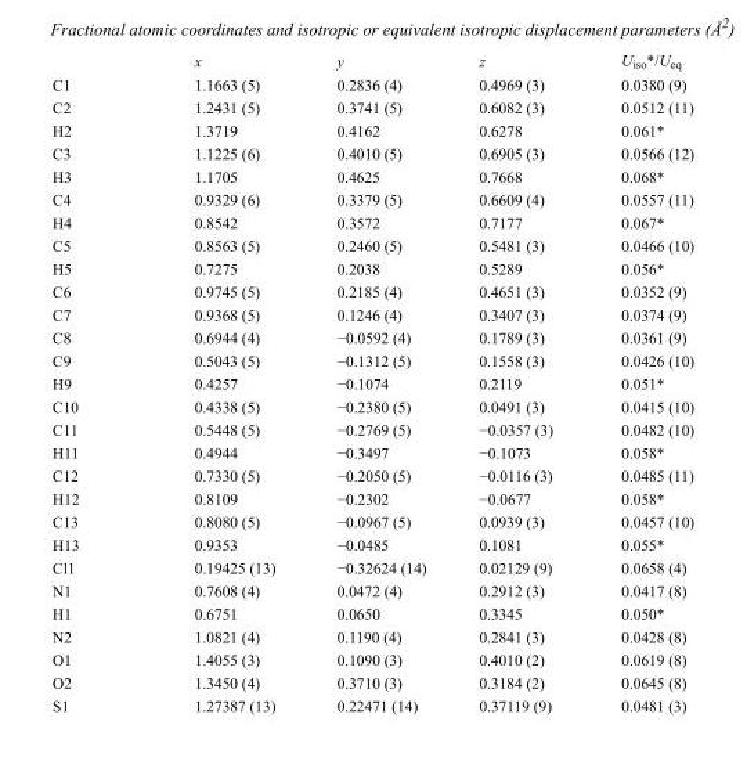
<table><thead><tr><td></td><td>x</td><td>y</td><td>z</td><td>U<sub>iso</sub>*/U<sub>eq</sub></td></tr></thead><tbody><tr><td>C1</td><td>1.1663 (5)</td><td>0.2836 (4)</td><td>0.4969 (3)</td><td>0.0380 (9)</td></tr><tr><td>C2</td><td>1.2431 (5)</td><td>0.3741 (5)</td><td>0.6082 (3)</td><td>0.0512 (11)</td></tr><tr><td>H2</td><td>1.3719</td><td>0.4162</td><td>0.6278</td><td>0.061*</td></tr><tr><td>C3</td><td>1.1225 (6)</td><td>0.4010 (5)</td><td>0.6905 (3)</td><td>0.0566 (12)</td></tr><tr><td>H3</td><td>1.1705</td><td>0.4625</td><td>0.7668</td><td>0.068*</td></tr><tr><td>C4</td><td>0.9329 (6)</td><td>0.3379 (5)</td><td>0.6609 (4)</td><td>0.0557 (11)</td></tr><tr><td>H4</td><td>0.8542</td><td>0.3572</td><td>0.7177</td><td>0.067*</td></tr><tr><td>C5</td><td>0.8563 (5)</td><td>0.2460 (5)</td><td>0.5481 (3)</td><td>0.0466 (10)</td></tr><tr><td>H5</td><td>0.7275</td><td>0.2038</td><td>0.5289</td><td>0.056*</td></tr><tr><td>C6</td><td>0.9745 (5)</td><td>0.2185 (4)</td><td>0.4651 (3)</td><td>0.0352 (9)</td></tr><tr><td>C7</td><td>0.9368 (5)</td><td>0.1246 (4)</td><td>0.3407 (3)</td><td>0.0374 (9)</td></tr><tr><td>C8</td><td>0.6944 (4)</td><td>−0.0592 (4)</td><td>0.1789 (3)</td><td>0.0361 (9)</td></tr><tr><td>C9</td><td>0.5043 (5)</td><td>−0.1312 (5)</td><td>0.1558 (3)</td><td>0.0426 (10)</td></tr><tr><td>H9</td><td>0.4257</td><td>−0.1074</td><td>0.2119</td><td>0.051*</td></tr><tr><td>C10</td><td>0.4338 (5)</td><td>−0.2380 (5)</td><td>0.0491 (3)</td><td>0.0415 (10)</td></tr><tr><td>C11</td><td>0.5448 (5)</td><td>−0.2769 (5)</td><td>−0.0357 (3)</td><td>0.0482 (10)</td></tr><tr><td>H11</td><td>0.4944</td><td>−0.3497</td><td>−0.1073</td><td>0.058*</td></tr><tr><td>C12</td><td>0.7330 (5)</td><td>−0.2050 (5)</td><td>−0.0116 (3)</td><td>0.0485 (11)</td></tr><tr><td>H12</td><td>0.8109</td><td>−0.2302</td><td>−0.0677</td><td>0.058*</td></tr><tr><td>C13</td><td>0.8080 (5)</td><td>−0.0967 (5)</td><td>0.0939 (3)</td><td>0.0457 (10)</td></tr><tr><td>H13</td><td>0.9353</td><td>−0.0485</td><td>0.1081</td><td>0.055*</td></tr><tr><td>Cl1</td><td>0.19425 (13)</td><td>−0.32624 (14)</td><td>0.02129 (9)</td><td>0.0658 (4)</td></tr><tr><td>N1</td><td>0.7608 (4)</td><td>0.0472 (4)</td><td>0.2912 (3)</td><td>0.0417 (8)</td></tr><tr><td>H1</td><td>0.6751</td><td>0.0650</td><td>0.3345</td><td>0.050*</td></tr><tr><td>N2</td><td>1.0821 (4)</td><td>0.1190 (4)</td><td>0.2841 (3)</td><td>0.0428 (8)</td></tr><tr><td>O1</td><td>1.4055 (3)</td><td>0.1090 (3)</td><td>0.4010 (2)</td><td>0.0619 (8)</td></tr><tr><td>O2</td><td>1.3450 (4)</td><td>0.3710 (3)</td><td>0.3184 (2)</td><td>0.0645 (8)</td></tr><tr><td>S1</td><td>1.27387 (13)</td><td>0.22471 (14)</td><td>0.37119 (9)</td><td>0.0481 (3)</td></tr></tbody></table>